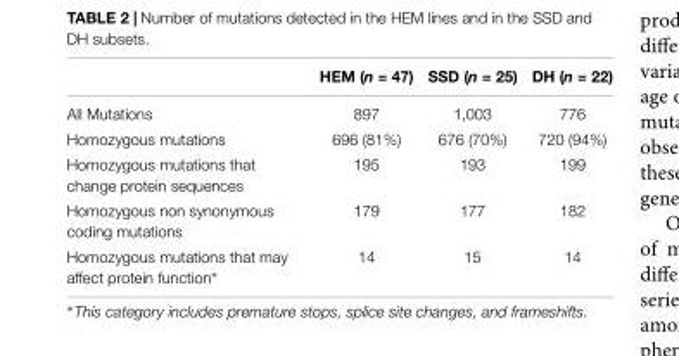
<table><thead><tr><td></td><td>HEM (n = 47)</td><td>SSD (n = 25)</td><td>DH (n = 22)</td></tr></thead><tbody><tr><td>All Mutations</td><td>897</td><td>1,003</td><td>776</td></tr><tr><td>Homozygous mutations</td><td>696 (81%)</td><td>676 (70%)</td><td>720 (94%)</td></tr><tr><td>Homozygous mutations that change protein sequences</td><td>195</td><td>193</td><td>199</td></tr><tr><td>Homozygous non synonymous coding mutations</td><td>179</td><td>177</td><td>182</td></tr><tr><td>Homozygous mutations that may affect protein function∗</td><td>14</td><td>15</td><td>14</td></tr></tbody></table>